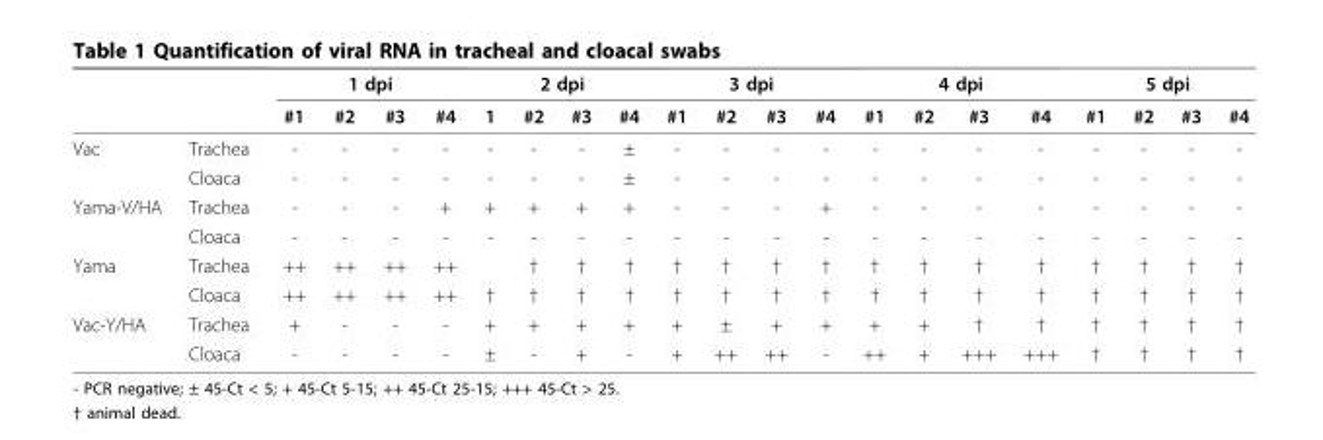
<table><thead><tr><td rowspan="2"></td><td rowspan="2"></td><td colspan="4">1 dpi</td><td colspan="4">2 dpi</td><td colspan="4">3 dpi</td><td colspan="4">4 dpi</td><td colspan="4">5 dpi</td></tr><tr><td>#1</td><td>#2</td><td>#3</td><td>#4</td><td>1</td><td>#2</td><td>#3</td><td>#4</td><td>#1</td><td>#2</td><td>#3</td><td>#4</td><td>#1</td><td>#2</td><td>#3</td><td>#4</td><td>#1</td><td>#2</td><td>#3</td><td>#4</td></tr></thead><tbody><tr><td rowspan="2">Vac</td><td>Trachea</td><td>-</td><td>-</td><td>-</td><td>-</td><td>-</td><td>-</td><td>-</td><td>±</td><td>-</td><td>-</td><td>-</td><td>-</td><td>-</td><td>-</td><td>-</td><td>-</td><td>-</td><td>-</td><td>-</td><td>-</td></tr><tr><td>Cloaca</td><td>-</td><td>-</td><td>-</td><td>-</td><td>-</td><td>-</td><td>-</td><td>±</td><td>-</td><td>-</td><td>-</td><td>-</td><td>-</td><td>-</td><td>-</td><td>-</td><td>-</td><td>-</td><td>-</td><td>-</td></tr><tr><td rowspan="2">Yama-V/HA</td><td>Trachea</td><td>-</td><td>-</td><td>-</td><td>+</td><td>+</td><td>+</td><td>+</td><td>+</td><td>-</td><td>-</td><td>-</td><td>+</td><td>-</td><td>-</td><td>-</td><td>-</td><td>-</td><td>-</td><td>-</td><td>-</td></tr><tr><td>Cloaca</td><td>-</td><td>-</td><td>-</td><td>-</td><td>-</td><td>-</td><td>-</td><td>-</td><td>-</td><td>-</td><td>-</td><td>-</td><td>-</td><td>-</td><td>-</td><td>-</td><td>-</td><td>-</td><td>-</td><td>-</td></tr><tr><td rowspan="2">Yama</td><td>Trachea</td><td>++</td><td>++</td><td>++</td><td>++</td><td></td><td>†</td><td>†</td><td>†</td><td>†</td><td>†</td><td>†</td><td>†</td><td>†</td><td>†</td><td>†</td><td>†</td><td>†</td><td>†</td><td>†</td><td>†</td></tr><tr><td>Cloaca</td><td>++</td><td>++</td><td>++</td><td>++</td><td>†</td><td>†</td><td>†</td><td>†</td><td>†</td><td>†</td><td>†</td><td>†</td><td>†</td><td>†</td><td>†</td><td>†</td><td>†</td><td>†</td><td>†</td><td>†</td></tr><tr><td rowspan="2">Vac-Y/HA</td><td>Trachea</td><td>+</td><td>-</td><td>-</td><td>-</td><td>+</td><td>+</td><td>+</td><td>+</td><td>+</td><td>±</td><td>+</td><td>+</td><td>+</td><td>+</td><td>†</td><td>†</td><td>†</td><td>†</td><td>†</td><td>†</td></tr><tr><td>Cloaca</td><td>-</td><td>-</td><td>-</td><td>-</td><td>±</td><td>-</td><td>+</td><td>-</td><td>+</td><td>++</td><td>++</td><td>-</td><td>++</td><td>+</td><td>+++</td><td>+++</td><td>†</td><td>†</td><td>†</td><td>†</td></tr></tbody></table>